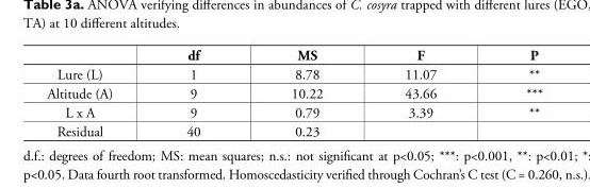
<table><thead><tr><td></td><td>df</td><td>MS</td><td>F</td><td>P</td></tr></thead><tbody><tr><td>Lure (L)</td><td>1</td><td>8.78</td><td>11.07</td><td>**</td></tr><tr><td>Altitude (A)</td><td>9</td><td>10.22</td><td>43.66</td><td>***</td></tr><tr><td>L x A</td><td>9</td><td>0.79</td><td>3.39</td><td>**</td></tr><tr><td>Residual</td><td>40</td><td>0.23</td><td></td><td></td></tr></tbody></table>